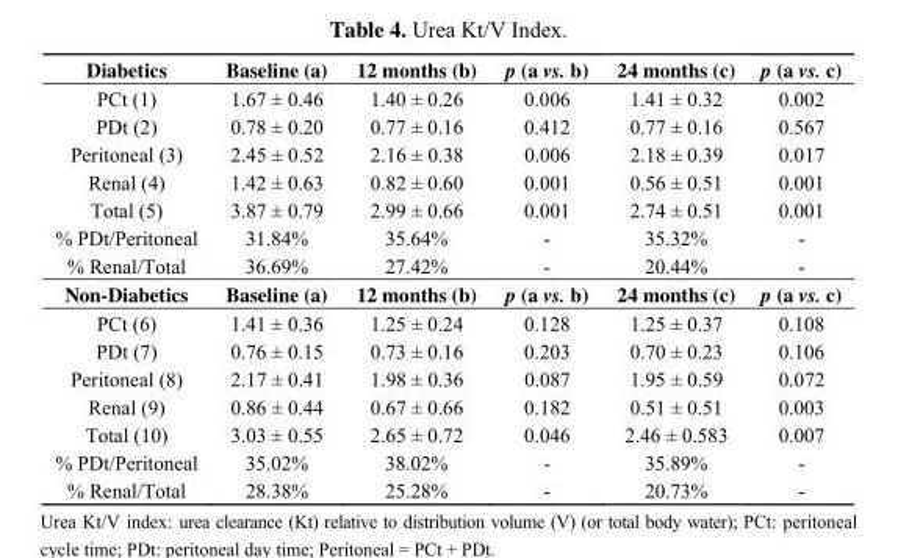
<table><tbody><tr><td>Diabetics</td><td>Baseline (a)</td><td>12 months (b)</td><td>p (a vs. b)</td><td>24 months (c)</td><td>p (a vs. c)</td></tr><tr><td>PCt (1)</td><td>1.67 ± 0.46</td><td>1.40 ± 0.26</td><td>0.006</td><td>1.41 ± 0.32</td><td>0.002</td></tr><tr><td>PDt (2)</td><td>0.78 ± 0.20</td><td>0.77 ± 0.16</td><td>0.412</td><td>0.77 ± 0.16</td><td>0.567</td></tr><tr><td>Peritoneal (3)</td><td>2.45 ± 0.52</td><td>2.16 ± 0.38</td><td>0.006</td><td>2.18 ± 0.39</td><td>0.017</td></tr><tr><td>Renal (4)</td><td>1.42 ± 0.63</td><td>0.82 ± 0.60</td><td>0.001</td><td>0.56 ± 0.51</td><td>0.001</td></tr><tr><td>Total (5)</td><td>3.87 ± 0.79</td><td>2.99 ± 0.66</td><td>0.001</td><td>2.74 ± 0.51</td><td>0.001</td></tr><tr><td>% PDt/Peritoneal</td><td>31.84%</td><td>35.64%</td><td>-</td><td>35.32%</td><td>-</td></tr><tr><td>% Renal/Total</td><td>36.69%</td><td>27.42%</td><td>-</td><td>20.44%</td><td>-</td></tr><tr><td>Non-Diabetics</td><td>Baseline (a)</td><td>12 months (b)</td><td>p (a vs. b)</td><td>24 months (c)</td><td>p (a vs. c)</td></tr><tr><td>PCt (6)</td><td>1.41 ± 0.36</td><td>1.25 ± 0.24</td><td>0.128</td><td>1.25 ± 0.37</td><td>0.108</td></tr><tr><td>PDt (7)</td><td>0.76 ± 0.15</td><td>0.73 ± 0.16</td><td>0.203</td><td>0.70 ± 0.23</td><td>0.106</td></tr><tr><td>Peritoneal (8)</td><td>2.17 ± 0.41</td><td>1.98 ± 0.36</td><td>0.087</td><td>1.95 ± 0.59</td><td>0.072</td></tr><tr><td>Renal (9)</td><td>0.86 ± 0.44</td><td>0.67 ± 0.66</td><td>0.182</td><td>0.51 ± 0.51</td><td>0.003</td></tr><tr><td>Total (10)</td><td>3.03 ± 0.55</td><td>2.65 ± 0.72</td><td>0.046</td><td>2.46 ± 0.583</td><td>0.007</td></tr><tr><td>% PDt/Peritoneal</td><td>35.02%</td><td>38.02%</td><td>-</td><td>35.89%</td><td>-</td></tr><tr><td>% Renal/Total</td><td>28.38%</td><td>25.28%</td><td>-</td><td>20.73%</td><td>-</td></tr></tbody></table>